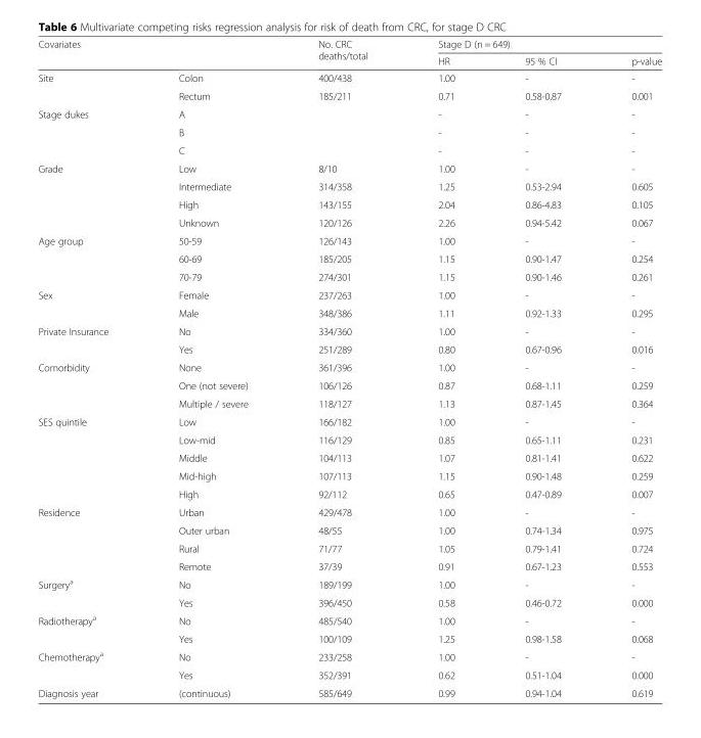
<table><thead><tr><td rowspan="2">Covariates</td><td rowspan="2"></td><td rowspan="2">No. CRC deaths/total</td><td colspan="3">Stage D (n = 649)</td></tr><tr><td>HR</td><td>95 % CI</td><td>p-value</td></tr></thead><tbody><tr><td rowspan="2">Site</td><td>Colon</td><td>400/438</td><td>1.00</td><td>-</td><td>-</td></tr><tr><td>Rectum</td><td>185/211</td><td>0.71</td><td>0.58-0.87</td><td>0.001</td></tr><tr><td rowspan="3">Stage dukes</td><td>A</td><td></td><td>-</td><td>-</td><td>-</td></tr><tr><td>B</td><td></td><td>-</td><td>-</td><td>-</td></tr><tr><td>C</td><td></td><td>-</td><td>-</td><td>-</td></tr><tr><td rowspan="4">Grade</td><td>Low</td><td>8/10</td><td>1.00</td><td>-</td><td>-</td></tr><tr><td>Intermediate</td><td>314/358</td><td>1.25</td><td>0.53-2.94</td><td>0.605</td></tr><tr><td>High</td><td>143/155</td><td>2.04</td><td>0.86-4.83</td><td>0.105</td></tr><tr><td>Unknown</td><td>120/126</td><td>2.26</td><td>0.94-5.42</td><td>0.067</td></tr><tr><td rowspan="3">Age group</td><td>50-59</td><td>126/143</td><td>1.00</td><td>-</td><td>-</td></tr><tr><td>60-69</td><td>185/205</td><td>1.15</td><td>0.90-1.47</td><td>0.254</td></tr><tr><td>70-79</td><td>274/301</td><td>1.15</td><td>0.90-1.46</td><td>0.261</td></tr><tr><td rowspan="2">Sex</td><td>Female</td><td>237/263</td><td>1.00</td><td>-</td><td>-</td></tr><tr><td>Male</td><td>348/386</td><td>1.11</td><td>0.92-1.33</td><td>0.295</td></tr><tr><td rowspan="2">Private Insurance</td><td>No</td><td>334/360</td><td>1.00</td><td>-</td><td>-</td></tr><tr><td>Yes</td><td>251/289</td><td>0.80</td><td>0.67-0.96</td><td>0.016</td></tr><tr><td rowspan="3">Comorbidity</td><td>None</td><td>361/396</td><td>1.00</td><td>-</td><td>-</td></tr><tr><td>One (not severe)</td><td>106/126</td><td>0.87</td><td>0.68-1.11</td><td>0.259</td></tr><tr><td>Multiple / severe</td><td>118/127</td><td>1.13</td><td>0.87-1.45</td><td>0.364</td></tr><tr><td rowspan="5">SES quintile</td><td>Low</td><td>166/182</td><td>1.00</td><td>-</td><td>-</td></tr><tr><td>Low-mid</td><td>116/129</td><td>0.85</td><td>0.65-1.11</td><td>0.231</td></tr><tr><td>Middle</td><td>104/113</td><td>1.07</td><td>0.81-1.41</td><td>0.622</td></tr><tr><td>Mid-high</td><td>107/113</td><td>1.15</td><td>0.90-1.48</td><td>0.259</td></tr><tr><td>High</td><td>92/112</td><td>0.65</td><td>0.47-0.89</td><td>0.007</td></tr><tr><td rowspan="4">Residence</td><td>Urban</td><td>429/478</td><td>1.00</td><td>-</td><td>-</td></tr><tr><td>Outer urban</td><td>48/55</td><td>1.00</td><td>0.74-1.34</td><td>0.975</td></tr><tr><td>Rural</td><td>71/77</td><td>1.05</td><td>0.79-1.41</td><td>0.724</td></tr><tr><td>Remote</td><td>37/39</td><td>0.91</td><td>0.67-1.23</td><td>0.553</td></tr><tr><td rowspan="2">Surgery<sup>a</sup></td><td>No</td><td>189/199</td><td>1.00</td><td>-</td><td>-</td></tr><tr><td>Yes</td><td>396/450</td><td>0.58</td><td>0.46-0.72</td><td>0.000</td></tr><tr><td rowspan="2">Radiotherapy<sup>a</sup></td><td>No</td><td>485/540</td><td>1.00</td><td>-</td><td>-</td></tr><tr><td>Yes</td><td>100/109</td><td>1.25</td><td>0.98-1.58</td><td>0.068</td></tr><tr><td rowspan="2">Chemotherapy<sup>a</sup></td><td>No</td><td>233/258</td><td>1.00</td><td>-</td><td>-</td></tr><tr><td>Yes</td><td>352/391</td><td>0.62</td><td>0.51-1.04</td><td>0.000</td></tr><tr><td>Diagnosis year</td><td>(continuous)</td><td>585/649</td><td>0.99</td><td>0.94-1.04</td><td>0.619</td></tr></tbody></table>